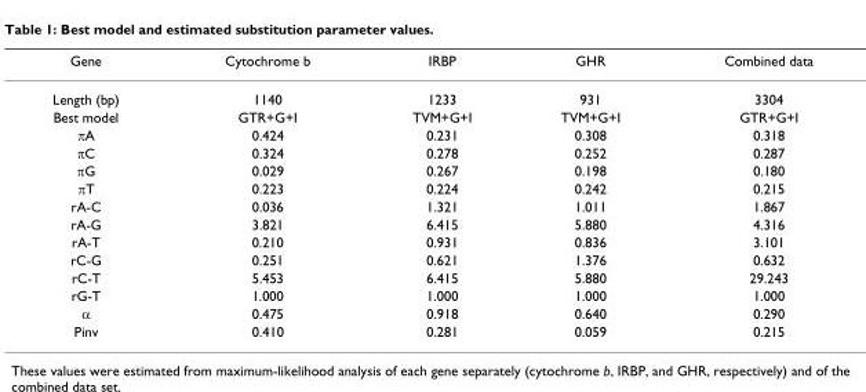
<table><thead><tr><td>Gene</td><td>Cytochrome b</td><td>IRBP</td><td>GHR</td><td>Combined data</td></tr></thead><tbody><tr><td>Length (bp)</td><td>1140</td><td>1233</td><td>931</td><td>3304</td></tr><tr><td>Best model</td><td>GTR+G+I</td><td>TVM+G+I</td><td>TVM+G+I</td><td>GTR+G+I</td></tr><tr><td>πA</td><td>0.424</td><td>0.231</td><td>0.308</td><td>0.318</td></tr><tr><td>πC</td><td>0.324</td><td>0.278</td><td>0.252</td><td>0.287</td></tr><tr><td>πG</td><td>0.029</td><td>0.267</td><td>0.198</td><td>0.180</td></tr><tr><td>πT</td><td>0.223</td><td>0.224</td><td>0.242</td><td>0.215</td></tr><tr><td>rA-C</td><td>0.036</td><td>1.321</td><td>1.011</td><td>1.867</td></tr><tr><td>rA-G</td><td>3.821</td><td>6.415</td><td>5.880</td><td>4.316</td></tr><tr><td>rA-T</td><td>0.210</td><td>0.931</td><td>0.836</td><td>3.101</td></tr><tr><td>rC-G</td><td>0.251</td><td>0.621</td><td>1.376</td><td>0.632</td></tr><tr><td>rC-T</td><td>5.453</td><td>6.415</td><td>5.880</td><td>29.243</td></tr><tr><td>rG-T</td><td>1.000</td><td>1.000</td><td>1.000</td><td>1.000</td></tr><tr><td>α</td><td>0.475</td><td>0.918</td><td>0.640</td><td>0.290</td></tr><tr><td>Pinv</td><td>0.410</td><td>0.281</td><td>0.059</td><td>0.215</td></tr></tbody></table>